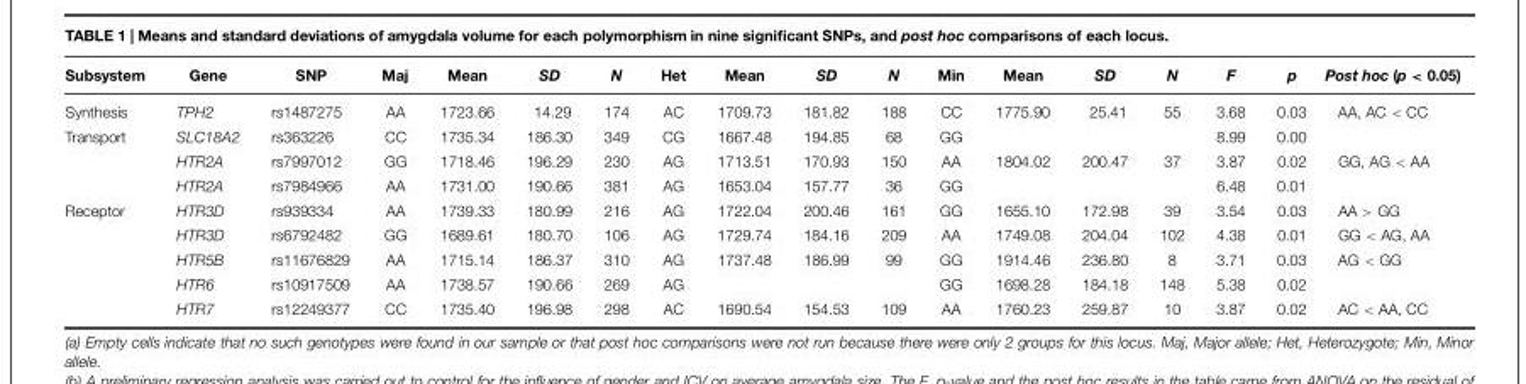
<table><thead><tr><td>Subsystem</td><td>Gene</td><td>SNP</td><td>Maj</td><td>Mean</td><td>SD</td><td>N</td><td>Het</td><td>Mean</td><td>SD</td><td>N</td><td>Min</td><td>Mean</td><td>SD</td><td>N</td><td>F</td><td>p</td><td>Post hoc (p &lt; 0.05)</td></tr></thead><tbody><tr><td>Synthesis</td><td>TPH2</td><td>rs1487275</td><td>AA</td><td>1723.66</td><td>14.29</td><td>174</td><td>AC</td><td>1709.73</td><td>181.82</td><td>188</td><td>CC</td><td>1775.90</td><td>25.41</td><td>55</td><td>3.68</td><td>0.03</td><td>AA, AC &lt; CC</td></tr><tr><td rowspan="3">Transport</td><td>SLC18A2</td><td>rs363226</td><td>CC</td><td>1735.34</td><td>186.30</td><td>349</td><td>CG</td><td>1667.48</td><td>194.85</td><td>68</td><td>GG</td><td></td><td></td><td></td><td>8.99</td><td>0.00</td><td></td></tr><tr><td>HTR2A</td><td>rs7997012</td><td>GG</td><td>1718.46</td><td>196.29</td><td>230</td><td>AG</td><td>1713.51</td><td>170.93</td><td>150</td><td>AA</td><td>1804.02</td><td>200.47</td><td>37</td><td>3.87</td><td>0.02</td><td>GG, AG &lt; AA</td></tr><tr><td>HTR2A</td><td>rs7984966</td><td>AA</td><td>1731.00</td><td>190.66</td><td>381</td><td>AG</td><td>1653.04</td><td>157.77</td><td>36</td><td>GG</td><td></td><td></td><td></td><td>6.48</td><td>0.01</td><td></td></tr><tr><td rowspan="5">Receptor</td><td>HTR3D</td><td>rs939334</td><td>AA</td><td>1739.33</td><td>180.99</td><td>216</td><td>AG</td><td>1722.04</td><td>200.46</td><td>161</td><td>GG</td><td>1655.10</td><td>172.98</td><td>39</td><td>3.54</td><td>0.03</td><td>AA &gt; GG</td></tr><tr><td>HTR3D</td><td>rs6792482</td><td>GG</td><td>1689.61</td><td>180.70</td><td>106</td><td>AG</td><td>1729.74</td><td>184.16</td><td>209</td><td>AA</td><td>1749.08</td><td>204.04</td><td>102</td><td>4.38</td><td>0.01</td><td>GG &lt; AG, AA</td></tr><tr><td>HTR5B</td><td>rs11676829</td><td>AA</td><td>1715.14</td><td>186.37</td><td>310</td><td>AG</td><td>1737.48</td><td>186.99</td><td>99</td><td>GG</td><td>1914.46</td><td>236.80</td><td>8</td><td>3.71</td><td>0.03</td><td>AG &lt; GG</td></tr><tr><td>HTR6</td><td>rs10917509</td><td>AA</td><td>1738.57</td><td>190.66</td><td>269</td><td>AG</td><td></td><td></td><td></td><td>GG</td><td>1698.28</td><td>184.18</td><td>148</td><td>5.38</td><td>0.02</td><td></td></tr><tr><td>HTR7</td><td>rs12249377</td><td>CC</td><td>1735.40</td><td>196.98</td><td>298</td><td>AC</td><td>1690.54</td><td>154.53</td><td>109</td><td>AA</td><td>1760.23</td><td>259.87</td><td>10</td><td>3.87</td><td>0.02</td><td>AC &lt; AA, CC</td></tr></tbody></table>